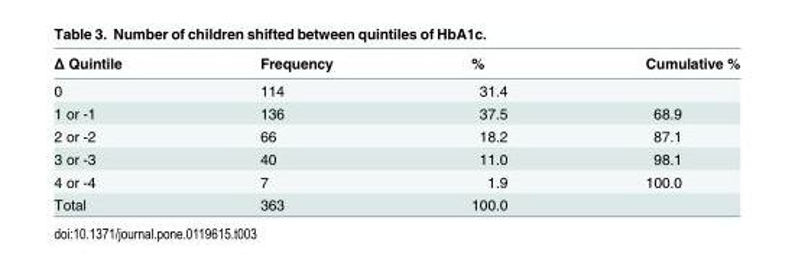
<table><thead><tr><td>Δ Quintile</td><td>Frequency</td><td>%</td><td>Cumulative %</td></tr></thead><tbody><tr><td>0</td><td>114</td><td>31.4</td><td></td></tr><tr><td>1 or -1</td><td>136</td><td>37.5</td><td>68.9</td></tr><tr><td>2 or -2</td><td>66</td><td>18.2</td><td>87.1</td></tr><tr><td>3 or -3</td><td>40</td><td>11.0</td><td>98.1</td></tr><tr><td>4 or -4</td><td>7</td><td>1.9</td><td>100.0</td></tr><tr><td>Total</td><td>363</td><td>100.0</td><td></td></tr></tbody></table>